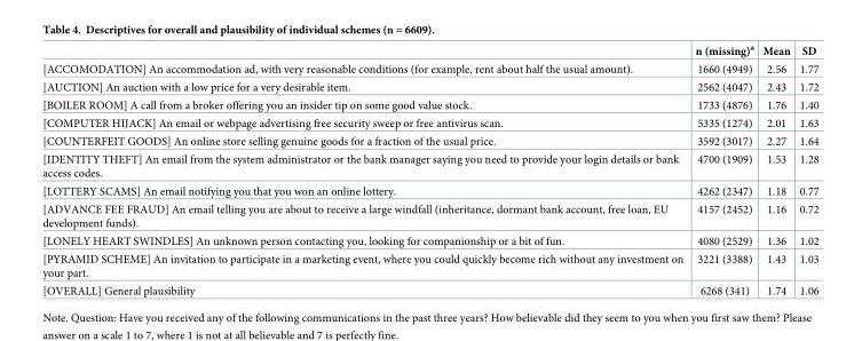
<table><thead><tr><td></td><td>n (missing)<sup>a</sup></td><td>Mean</td><td>SD</td></tr></thead><tbody><tr><td>[ACCOMODATION] An accommodation ad, with very reasonable conditions (for example, rent about half the usual amount).</td><td>1660 (4949)</td><td>2.56</td><td>1.77</td></tr><tr><td>[AUCTION] An auction with a low price for a very desirable item.</td><td>2562 (4047)</td><td>2.43</td><td>1.72</td></tr><tr><td>[BOILER ROOM] A call from a broker offering you an insider tip on some good value stock.</td><td>1733 (4876)</td><td>1.76</td><td>1.40</td></tr><tr><td>[COMPUTER HIJACK] An email or webpage advertising free security sweep or free antivirus scan.</td><td>5335 (1274)</td><td>2.01</td><td>1.63</td></tr><tr><td>[COUNTERFEIT GOODS] An online store selling genuine goods for a fraction of the usual price.</td><td>3592 (3017)</td><td>2.27</td><td>1.64</td></tr><tr><td>[IDENTITY THEFT] An email from the system administrator or the bank manager saying you need to provide your login details or bank access codes.</td><td>4700 (1909)</td><td>1.53</td><td>1.28</td></tr><tr><td>[LOTTERY SCAMS] An email notifying you that you won an online lottery.</td><td>4262 (2347)</td><td>1.18</td><td>0.77</td></tr><tr><td>[ADVANCE FEE FRAUD] An email telling you are about to receive a large windfall (inheritance, dormant bank account, free loan, EU development funds).</td><td>4157 (2452)</td><td>1.16</td><td>0.72</td></tr><tr><td>[LONELY HEART SWINDLES] An unknown person contacting you, looking for companionship or a bit of fun.</td><td>4080 (2529)</td><td>1.36</td><td>1.02</td></tr><tr><td>[PYRAMID SCHEME] An invitation to participate in a marketing event, where you could quickly become rich without any investment on your part.</td><td>3221 (3388)</td><td>1.43</td><td>1.03</td></tr><tr><td>[OVERALL] General plausibility</td><td>6268 (341)</td><td>1.74</td><td>1.06</td></tr></tbody></table>